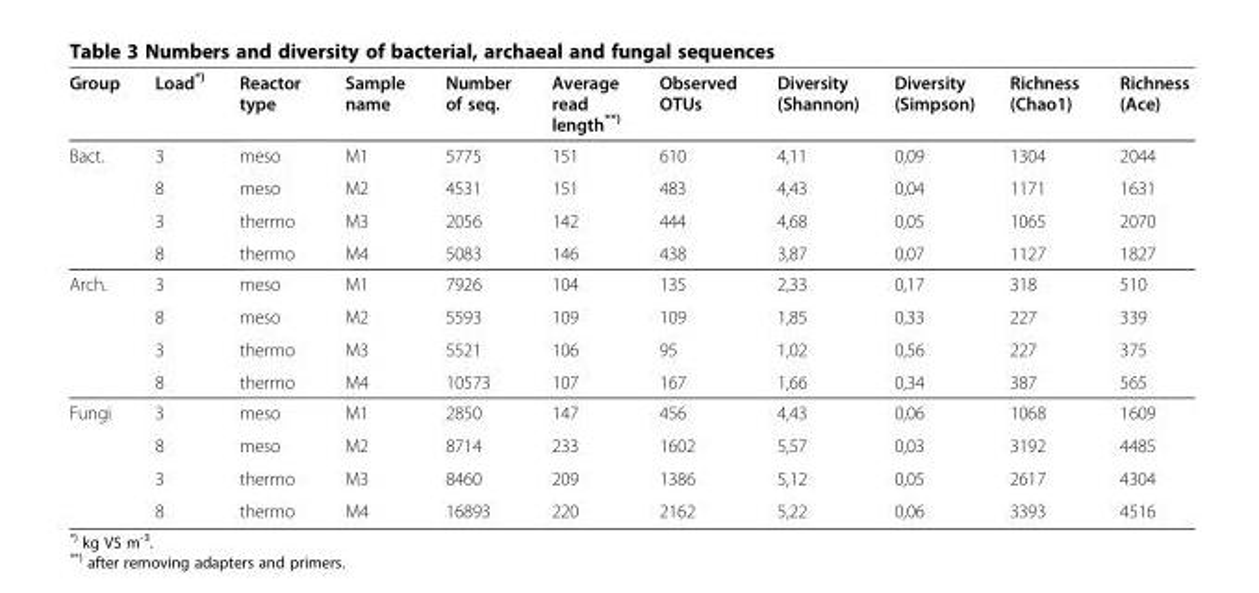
<table><thead><tr><td>Group</td><td>Load<sup>*)</sup></td><td>Reactor type</td><td>Sample name</td><td>Number of seq.</td><td>Average read length<sup>**)</sup></td><td>Observed OTUs</td><td>Diversity (Shannon)</td><td>Diversity (Simpson)</td><td>Richness (Chao1)</td><td>Richness (Ace)</td></tr></thead><tbody><tr><td rowspan="4">Bact.</td><td>3</td><td>meso</td><td>M1</td><td>5775</td><td>151</td><td>610</td><td>4,11</td><td>0,09</td><td>1304</td><td>2044</td></tr><tr><td>8</td><td>meso</td><td>M2</td><td>4531</td><td>151</td><td>483</td><td>4,43</td><td>0,04</td><td>1171</td><td>1631</td></tr><tr><td>3</td><td>thermo</td><td>M3</td><td>2056</td><td>142</td><td>444</td><td>4,68</td><td>0,05</td><td>1065</td><td>2070</td></tr><tr><td>8</td><td>thermo</td><td>M4</td><td>5083</td><td>146</td><td>438</td><td>3,87</td><td>0,07</td><td>1127</td><td>1827</td></tr><tr><td rowspan="4">Arch.</td><td>3</td><td>meso</td><td>M1</td><td>7926</td><td>104</td><td>135</td><td>2,33</td><td>0,17</td><td>318</td><td>510</td></tr><tr><td>8</td><td>meso</td><td>M2</td><td>5593</td><td>109</td><td>109</td><td>1,85</td><td>0,33</td><td>227</td><td>339</td></tr><tr><td>3</td><td>thermo</td><td>M3</td><td>5521</td><td>106</td><td>95</td><td>1,02</td><td>0,56</td><td>227</td><td>375</td></tr><tr><td>8</td><td>thermo</td><td>M4</td><td>10573</td><td>107</td><td>167</td><td>1,66</td><td>0,34</td><td>387</td><td>565</td></tr><tr><td rowspan="4">Fungi</td><td>3</td><td>meso</td><td>M1</td><td>2850</td><td>147</td><td>456</td><td>4,43</td><td>0,06</td><td>1068</td><td>1609</td></tr><tr><td>8</td><td>meso</td><td>M2</td><td>8714</td><td>233</td><td>1602</td><td>5,57</td><td>0,03</td><td>3192</td><td>4485</td></tr><tr><td>3</td><td>thermo</td><td>M3</td><td>8460</td><td>209</td><td>1386</td><td>5,12</td><td>0,05</td><td>2617</td><td>4304</td></tr><tr><td>8</td><td>thermo</td><td>M4</td><td>16893</td><td>220</td><td>2162</td><td>5,22</td><td>0,06</td><td>3393</td><td>4516</td></tr></tbody></table>